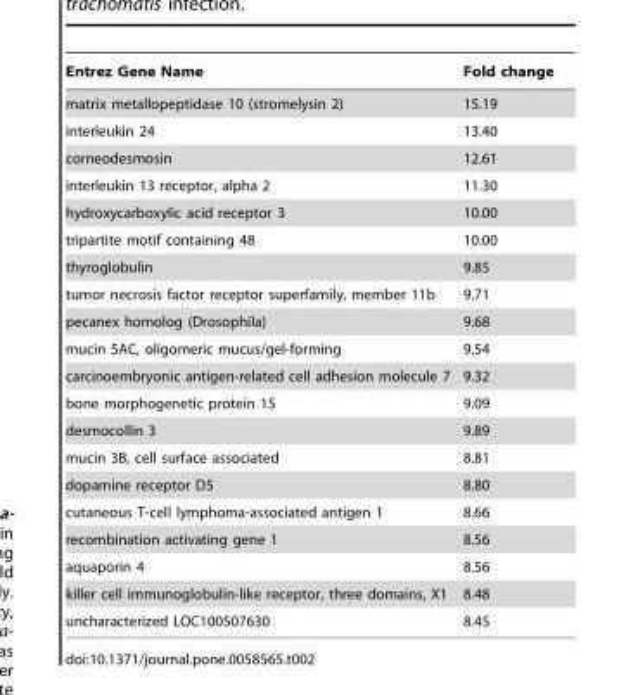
<table><thead><tr><td>Entrez Gene Name</td><td>Fold change</td></tr></thead><tbody><tr><td>matrix metallopeptidase 10 (stromelysin 2)</td><td>15.19</td></tr><tr><td>interleukin 24</td><td>13.40</td></tr><tr><td>corneodesmosin</td><td>12.61</td></tr><tr><td>interleukin 13 receptor, alpha 2</td><td>11.30</td></tr><tr><td>hydroxycarboxylic acid receptor 3</td><td>10.00</td></tr><tr><td>tripartite motif containing 48</td><td>10.00</td></tr><tr><td>thyroglobulin</td><td>9.85</td></tr><tr><td>tumor necrosis factor receptor superfamily, member 11b</td><td>9.71</td></tr><tr><td>pecanex homolog (Drosophila)</td><td>9.68</td></tr><tr><td>mucin 5AC, oligomeric mucus/gel-forming</td><td>9.54</td></tr><tr><td>carcinoembryonic antigen-related cell adhesion molecule 7</td><td>9.32</td></tr><tr><td>bone morphogenetic protein 15</td><td>9.09</td></tr><tr><td>desmocollin 3</td><td>9.89</td></tr><tr><td>mucin 3B, cell surface associated</td><td>8.81</td></tr><tr><td>dopamine receptor D5</td><td>8.80</td></tr><tr><td>cutaneous T-cell lymphoma-associated antigen 1</td><td>8.66</td></tr><tr><td>recombination activating gene 1</td><td>8.56</td></tr><tr><td>aquaporin 4</td><td>8.56</td></tr><tr><td>killer cell immunoglobulin-like receptor, three domains, X1</td><td>8.48</td></tr><tr><td>uncharacterized LOC100507630</td><td>8.45</td></tr></tbody></table>